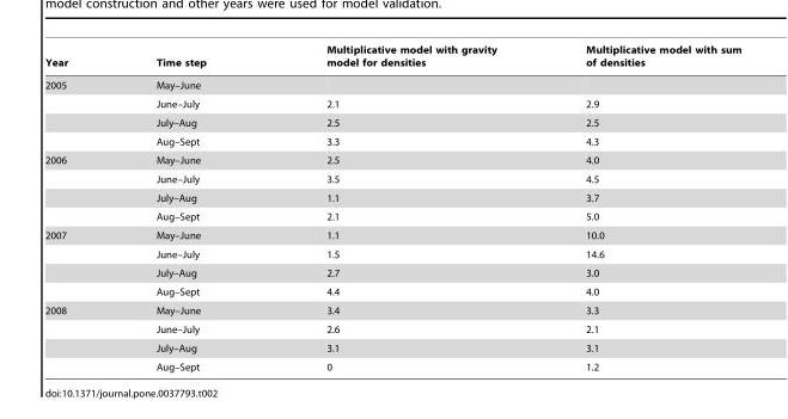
<table><thead><tr><td>Year</td><td>Time step</td><td>Multiplicative model with gravity model for densities</td><td>Multiplicative model with sum of densities</td></tr></thead><tbody><tr><td rowspan="4">2005</td><td>May–June</td><td></td><td></td></tr><tr><td>June–July</td><td>2.1</td><td>2.9</td></tr><tr><td>July–Aug</td><td>2.5</td><td>2.5</td></tr><tr><td>Aug–Sept</td><td>3.3</td><td>4.3</td></tr><tr><td rowspan="4">2006</td><td>May–June</td><td>2.5</td><td>4.0</td></tr><tr><td>June–July</td><td>3.5</td><td>4.5</td></tr><tr><td>July–Aug</td><td>1.1</td><td>3.7</td></tr><tr><td>Aug–Sept</td><td>2.1</td><td>5.0</td></tr><tr><td rowspan="4">2007</td><td>May–June</td><td>1.1</td><td>10.0</td></tr><tr><td>June–July</td><td>1.5</td><td>14.6</td></tr><tr><td>July–Aug</td><td>2.7</td><td>3.0</td></tr><tr><td>Aug–Sept</td><td>4.4</td><td>4.0</td></tr><tr><td rowspan="4">2008</td><td>May–June</td><td>3.4</td><td>3.3</td></tr><tr><td>June–July</td><td>2.6</td><td>2.1</td></tr><tr><td>July–Aug</td><td>3.1</td><td>3.1</td></tr><tr><td>Aug–Sept</td><td>0</td><td>1.2</td></tr></tbody></table>